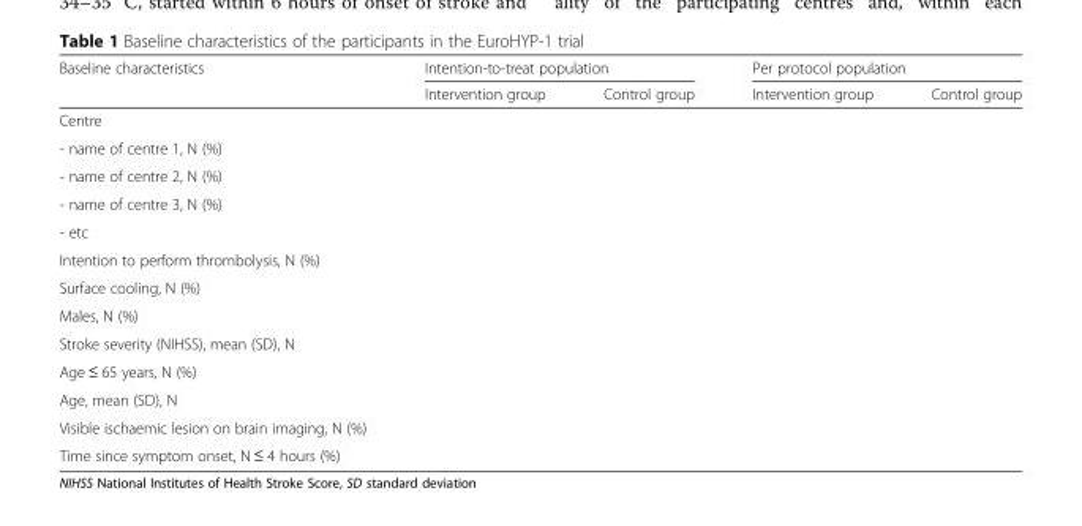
<table><thead><tr><td rowspan="2">Baseline characteristics</td><td colspan="2">Intention-to-treat population</td><td colspan="2">Per protocol population</td></tr><tr><td>Intervention group</td><td>Control group</td><td>Intervention group</td><td>Control group</td></tr></thead><tbody><tr><td colspan="5">Centre</td></tr><tr><td>- name of centre 1, N (%)</td><td rowspan="4"></td><td rowspan="4"></td><td rowspan="4"></td><td rowspan="4"></td></tr><tr><td>- name of centre 2, N (%)</td></tr><tr><td>- name of centre 3, N (%)</td></tr><tr><td>- etc</td></tr><tr><td colspan="5">Intention to perform thrombolysis, N (%)</td></tr><tr><td colspan="5">Surface cooling, N (%)</td></tr><tr><td colspan="5">Males, N (%)</td></tr><tr><td colspan="5">Stroke severity (NIHSS), mean (SD), N</td></tr><tr><td colspan="5">Age ≤ 65 years, N (%)</td></tr><tr><td colspan="5">Age, mean (SD), N</td></tr><tr><td colspan="5">Visible ischaemic lesion on brain imaging, N (%)</td></tr><tr><td>Time since symptom onset, N ≤ 4 hours (%)</td><td></td><td></td><td></td><td></td></tr></tbody></table>